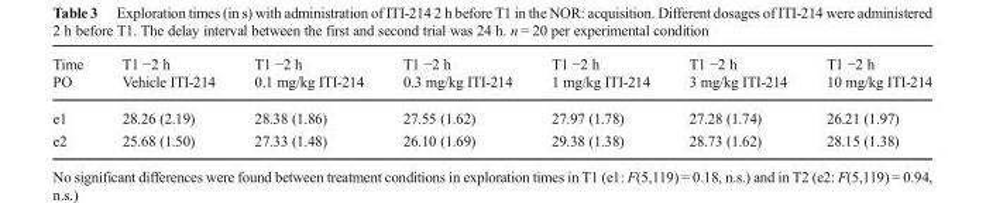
<table><thead><tr><td>Time PO</td><td>T1 −2 h Vehicle ITI-214</td><td>T1 −2 h 0.1 mg/kg ITI-214</td><td>T1 −2 h 0.3 mg/kg ITI-214</td><td>T1 −2 h 1 mg/kg ITI-214</td><td>T1 −2 h 3 mg/kg ITI-214</td><td>T1 −2 h 10 mg/kg ITI-214</td></tr></thead><tbody><tr><td>e1</td><td>28.26 (2.19)</td><td>28.38 (1.86)</td><td>27.55 (1.62)</td><td>27.97 (1.78)</td><td>27.28 (1.74)</td><td>26.21 (1.97)</td></tr><tr><td>e2</td><td>25.68 (1.50)</td><td>27.33 (1.48)</td><td>26.10 (1.69)</td><td>29.38 (1.38)</td><td>28.73 (1.62)</td><td>28.15 (1.38)</td></tr></tbody></table>